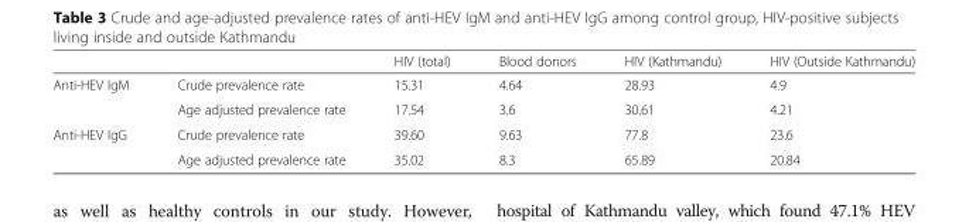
<table><thead><tr><td></td><td></td><td>HIV (total)</td><td>Blood donors</td><td>HIV (Kathmandu)</td><td>HIV (Outside Kathmandu)</td></tr></thead><tbody><tr><td rowspan="2">Anti-HEV IgM</td><td>Crude prevalence rate</td><td>15.31</td><td>4.64</td><td>28.93</td><td>4.9</td></tr><tr><td>Age adjusted prevalence rate</td><td>17.54</td><td>3.6</td><td>30.61</td><td>4.21</td></tr><tr><td rowspan="2">Anti-HEV IgG</td><td>Crude prevalence rate</td><td>39.60</td><td>9.63</td><td>77.8</td><td>23.6</td></tr><tr><td>Age adjusted prevalence rate</td><td>35.02</td><td>8.3</td><td>65.89</td><td>20.84</td></tr></tbody></table>